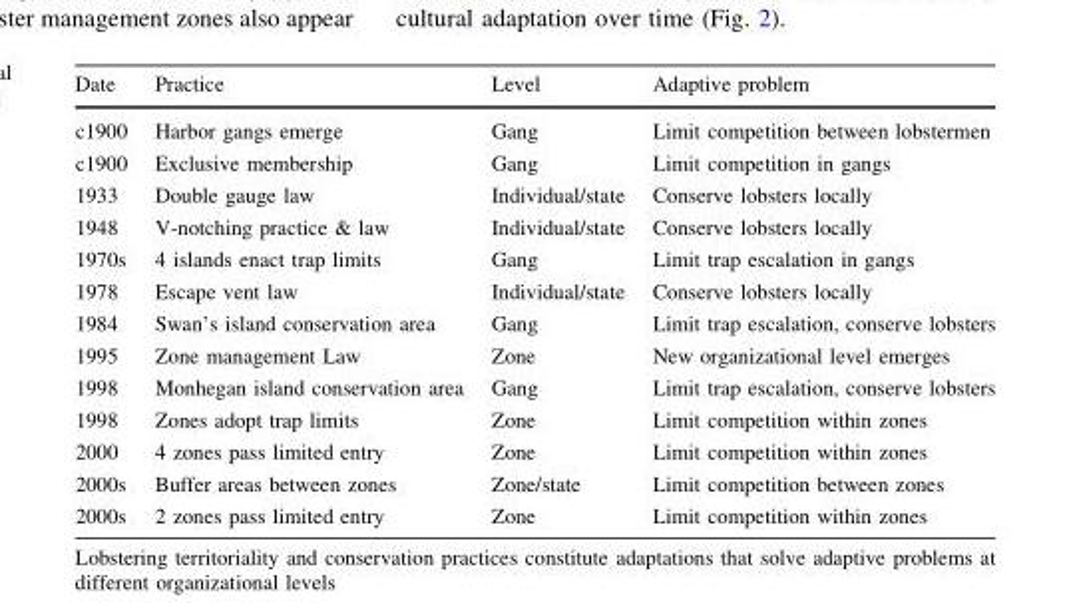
<table><thead><tr><td>Date</td><td>Practice</td><td>Level</td><td>Adaptive problem</td></tr></thead><tbody><tr><td>c1900</td><td>Harbor gangs emerge</td><td>Gang</td><td>Limit competition between lobstermen</td></tr><tr><td>c1900</td><td>Exclusive membership</td><td>Gang</td><td>Limit competition in gangs</td></tr><tr><td>1933</td><td>Double gauge law</td><td>Individual/state</td><td>Conserve lobsters locally</td></tr><tr><td>1948</td><td>V-notching practice &amp; law</td><td>Individual/state</td><td>Conserve lobsters locally</td></tr><tr><td>1970s</td><td>4 islands enact trap limits</td><td>Gang</td><td>Limit trap escalation in gangs</td></tr><tr><td>1978</td><td>Escape vent law</td><td>Individual/state</td><td>Conserve lobsters locally</td></tr><tr><td>1984</td><td>Swan’s island conservation area</td><td>Gang</td><td>Limit trap escalation, conserve lobsters</td></tr><tr><td>1995</td><td>Zone management Law</td><td>Zone</td><td>New organizational level emerges</td></tr><tr><td>1998</td><td>Monhegan island conservation area</td><td>Gang</td><td>Limit trap escalation, conserve lobsters</td></tr><tr><td>1998</td><td>Zones adopt trap limits</td><td>Zone</td><td>Limit competition within zones</td></tr><tr><td>2000</td><td>4 zones pass limited entry</td><td>Zone</td><td>Limit competition within zones</td></tr><tr><td>2000s</td><td>Buffer areas between zones</td><td>Zone/state</td><td>Limit competition between zones</td></tr><tr><td>2000s</td><td>2 zones pass limited entry</td><td>Zone</td><td>Limit competition within zones</td></tr></tbody></table>